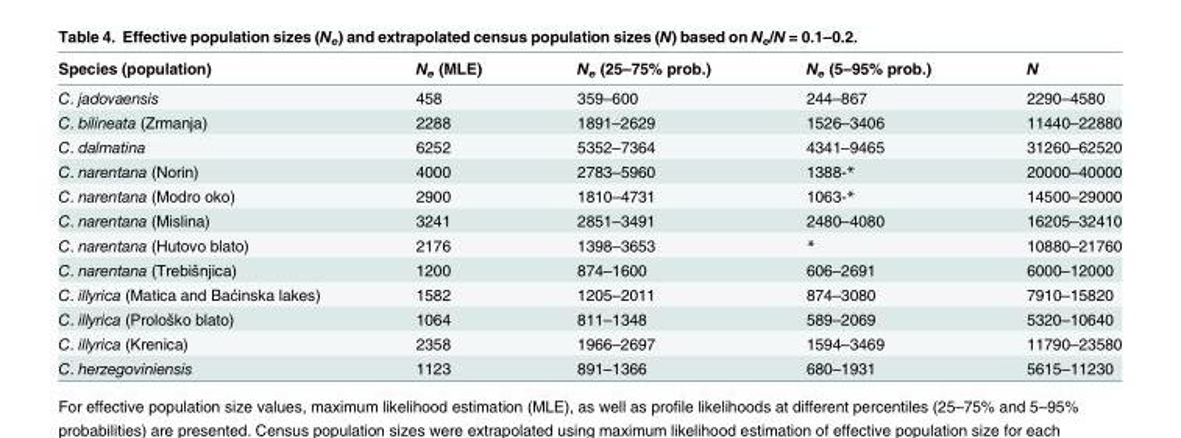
<table><thead><tr><td>Species (population)</td><td>N<sub>e</sub> (MLE)</td><td>N<sub>e</sub> (25–75% prob.)</td><td>N<sub>e</sub> (5–95% prob.)</td><td>N</td></tr></thead><tbody><tr><td>C. jadovaensis</td><td>458</td><td>359–600</td><td>244–867</td><td>2290–4580</td></tr><tr><td>C. bilineata (Zrmanja)</td><td>2288</td><td>1891–2629</td><td>1526–3406</td><td>11440–22880</td></tr><tr><td>C. dalmatina</td><td>6252</td><td>5352–7364</td><td>4341–9465</td><td>31260–62520</td></tr><tr><td>C. narentana (Norin)</td><td>4000</td><td>2783–5960</td><td>1388-*</td><td>20000–40000</td></tr><tr><td>C. narentana (Modro oko)</td><td>2900</td><td>1810–4731</td><td>1063-*</td><td>14500–29000</td></tr><tr><td>C. narentana (Mislina)</td><td>3241</td><td>2851–3491</td><td>2480–4080</td><td>16205–32410</td></tr><tr><td>C. narentana (Hutovo blato)</td><td>2176</td><td>1398–3653</td><td>*</td><td>10880–21760</td></tr><tr><td>C. narentana (Trebišnjica)</td><td>1200</td><td>874–1600</td><td>606–2691</td><td>6000–12000</td></tr><tr><td>C. illyrica (Matica and Baćinska lakes)</td><td>1582</td><td>1205–2011</td><td>874–3080</td><td>7910–15820</td></tr><tr><td>C. illyrica (Prološko blato)</td><td>1064</td><td>811–1348</td><td>589–2069</td><td>5320–10640</td></tr><tr><td>C. illyrica (Krenica)</td><td>2358</td><td>1966–2697</td><td>1594–3469</td><td>11790–23580</td></tr><tr><td>C. herzegoviniensis</td><td>1123</td><td>891–1366</td><td>680–1931</td><td>5615–11230</td></tr></tbody></table>